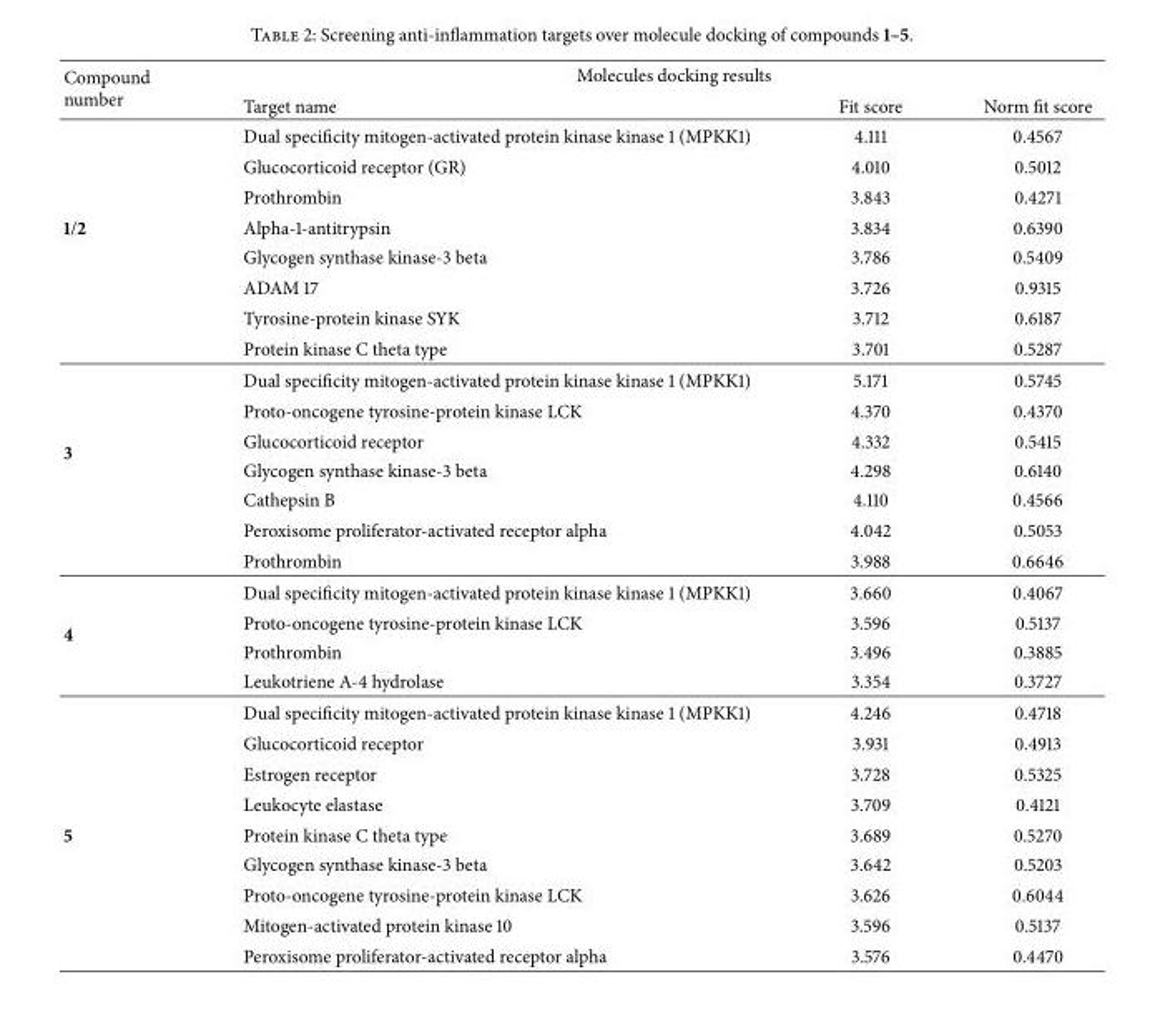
<table><thead><tr><td rowspan="2">Compound number</td><td colspan="3">Molecules docking results</td></tr><tr><td>Target name</td><td>Fit score</td><td>Norm fit score</td></tr></thead><tbody><tr><td></td><td>Dual specificity mitogen-activated protein kinase kinase 1 (MPKK1)</td><td>4.111</td><td>0.4567</td></tr><tr><td></td><td>Glucocorticoid receptor (GR)</td><td>4.010</td><td>0.5012</td></tr><tr><td></td><td>Prothrombin</td><td>3.843</td><td>0.4271</td></tr><tr><td rowspan="7">1/2</td><td>Alpha-1-antitrypsin</td><td>3.834</td><td>0.6390</td></tr><tr><td>Glycogen synthase kinase-3 beta</td><td>3.786</td><td>0.5409</td></tr><tr><td>ADAM 17</td><td>3.726</td><td>0.9315</td></tr><tr><td>Tyrosine-protein kinase SYK</td><td>3.712</td><td>0.6187</td></tr><tr><td>Protein kinase C theta type</td><td>3.701</td><td>0.5287</td></tr><tr><td>Dual specificity mitogen-activated protein kinase kinase 1 (MPKK1)</td><td>5.171</td><td>0.5745</td></tr><tr><td>Proto-oncogene tyrosine-protein kinase LCK</td><td>4.370</td><td>0.4370</td></tr><tr><td rowspan="6">3</td><td>Glucocorticoid receptor</td><td>4.332</td><td>0.5415</td></tr><tr><td>Glycogen synthase kinase-3 beta</td><td>4.298</td><td>0.6140</td></tr><tr><td>Cathepsin B</td><td>4.110</td><td>0.4566</td></tr><tr><td>Peroxisome proliferator-activated receptor alpha</td><td>4.042</td><td>0.5053</td></tr><tr><td>Prothrombin</td><td>3.988</td><td>0.6646</td></tr><tr><td>Dual specificity mitogen-activated protein kinase kinase 1 (MPKK1)</td><td>3.660</td><td>0.4067</td></tr><tr><td rowspan="7">4</td><td>Proto-oncogene tyrosine-protein kinase LCK</td><td>3.596</td><td>0.5137</td></tr><tr><td>Prothrombin</td><td>3.496</td><td>0.3885</td></tr><tr><td>Leukotriene A-4 hydrolase</td><td>3.354</td><td>0.3727</td></tr><tr><td>Dual specificity mitogen-activated protein kinase kinase 1 (MPKK1)</td><td>4.246</td><td>0.4718</td></tr><tr><td>Glucocorticoid receptor</td><td>3.931</td><td>0.4913</td></tr><tr><td>Estrogen receptor</td><td>3.728</td><td>0.5325</td></tr><tr><td>Leukocyte elastase</td><td>3.709</td><td>0.4121</td></tr><tr><td rowspan="5">5</td><td>Protein kinase C theta type</td><td>3.689</td><td>0.5270</td></tr><tr><td>Glycogen synthase kinase-3 beta</td><td>3.642</td><td>0.5203</td></tr><tr><td>Proto-oncogene tyrosine-protein kinase LCK</td><td>3.626</td><td>0.6044</td></tr><tr><td>Mitogen-activated protein kinase 10</td><td>3.596</td><td>0.5137</td></tr><tr><td>Peroxisome proliferator-activated receptor alpha</td><td>3.576</td><td>0.4470</td></tr></tbody></table>